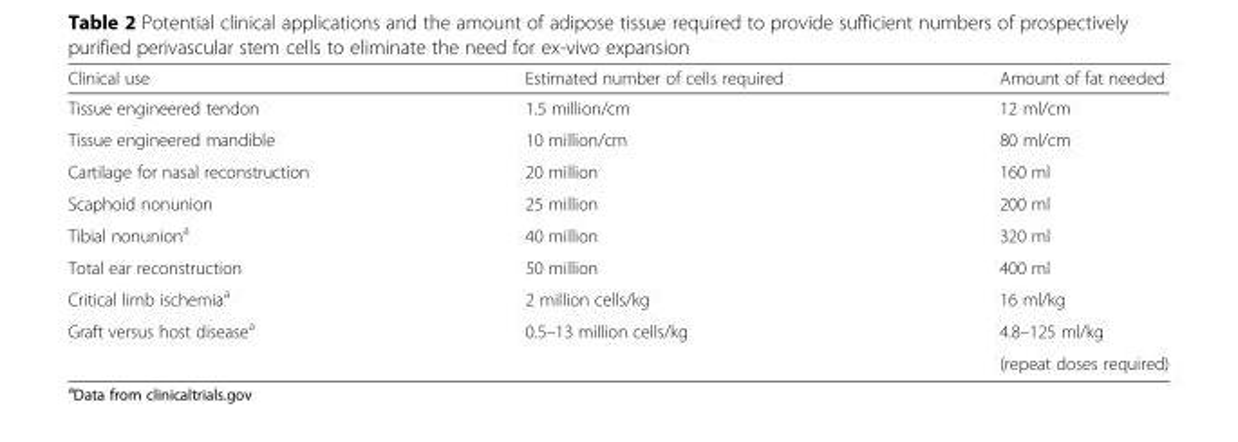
<table><thead><tr><td>Clinical use</td><td>Estimated number of cells required</td><td>Amount of fat needed</td></tr></thead><tbody><tr><td>Tissue engineered tendon</td><td>1.5 million/cm</td><td>12 ml/cm</td></tr><tr><td>Tissue engineered mandible</td><td>10 million/cm</td><td>80 ml/cm</td></tr><tr><td>Cartilage for nasal reconstruction</td><td>20 million</td><td>160 ml</td></tr><tr><td>Scaphoid nonunion</td><td>25 million</td><td>200 ml</td></tr><tr><td>Tibial nonunion<sup>a</sup></td><td>40 million</td><td>320 ml</td></tr><tr><td>Total ear reconstruction</td><td>50 million</td><td>400 ml</td></tr><tr><td>Critical limb ischemia<sup>a</sup></td><td>2 million cells/kg</td><td>16 ml/kg</td></tr><tr><td rowspan="2">Graft versus host disease<sup>a</sup></td><td rowspan="2">0.5–13 million cells/kg</td><td>4.8–125 ml/kg</td></tr><tr><td>(repeat doses required)</td></tr></tbody></table>